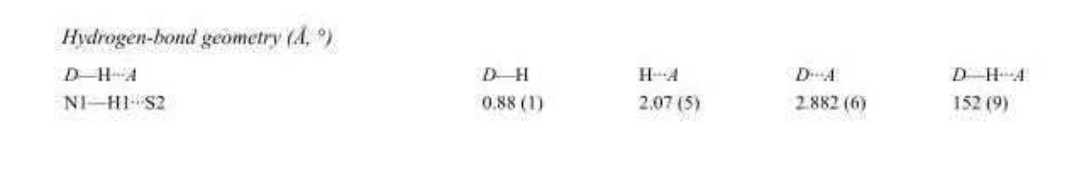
<table><tbody><tr><td>D—H···A</td><td>D—H</td><td>H···A</td><td>D···A</td><td>D—H···A</td></tr><tr><td>N1—H1···S2</td><td>0.88 (1)</td><td>2.07 (5)</td><td>2.882 (6)</td><td>152 (9)</td></tr></tbody></table>